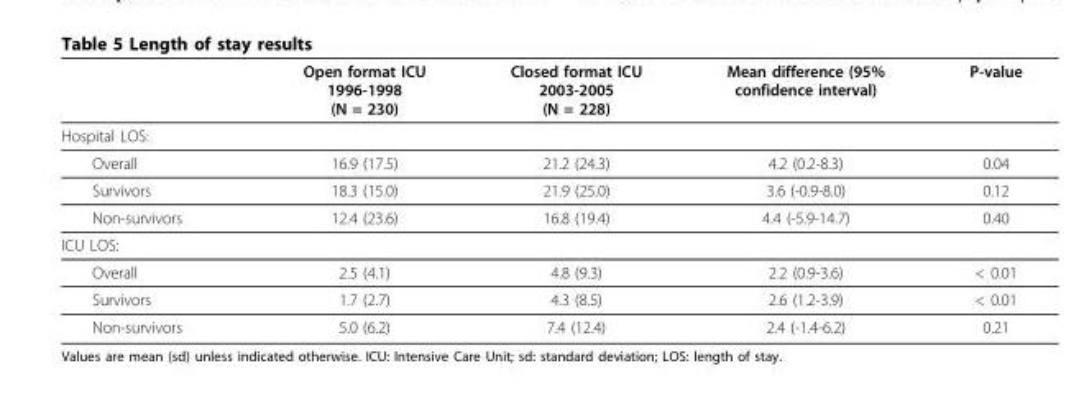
<table><thead><tr><td></td><td>Open format ICU 1996-1998 (N = 230)</td><td>Closed format ICU 2003-2005 (N = 228)</td><td>Mean difference (95% confidence interval)</td><td>P-value</td></tr></thead><tbody><tr><td colspan="5">Hospital LOS:</td></tr><tr><td>Overall</td><td>16.9 (17.5)</td><td>21.2 (24.3)</td><td>4.2 (0.2-8.3)</td><td>0.04</td></tr><tr><td>Survivors</td><td>18.3 (15.0)</td><td>21.9 (25.0)</td><td>3.6 (-0.9-8.0)</td><td>0.12</td></tr><tr><td>Non-survivors</td><td>12.4 (23.6)</td><td>16.8 (19.4)</td><td>4.4 (-5.9-14.7)</td><td>0.40</td></tr><tr><td colspan="5">ICU LOS:</td></tr><tr><td>Overall</td><td>2.5 (4.1)</td><td>4.8 (9.3)</td><td>2.2 (0.9-3.6)</td><td>&lt; 0.01</td></tr><tr><td>Survivors</td><td>1.7 (2.7)</td><td>4.3 (8.5)</td><td>2.6 (1.2-3.9)</td><td>&lt; 0.01</td></tr><tr><td>Non-survivors</td><td>5.0 (6.2)</td><td>7.4 (12.4)</td><td>2.4 (-1.4-6.2)</td><td>0.21</td></tr></tbody></table>